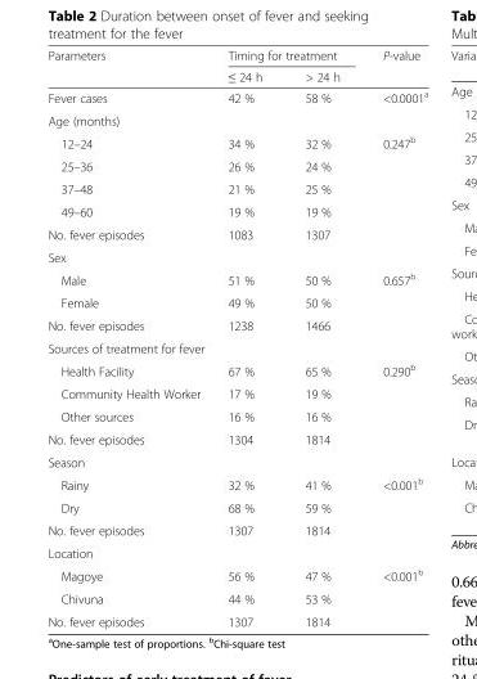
<table><thead><tr><td rowspan="2">Parameters</td><td colspan="2">Timing for treatment</td><td rowspan="2">P-value</td></tr><tr><td>≤ 24 h</td><td>&gt; 24 h</td></tr></thead><tbody><tr><td>Fever cases</td><td>42 %</td><td>58 %</td><td>&lt;0.0001<sup>a</sup></td></tr><tr><td colspan="4">Age (months)</td></tr><tr><td>12–24</td><td>34 %</td><td>32 %</td><td rowspan="5">0.247<sup>b</sup></td></tr><tr><td>25–36</td><td>26 %</td><td>24 %</td></tr><tr><td>37–48</td><td>21 %</td><td>25 %</td></tr><tr><td>49–60</td><td>19 %</td><td>19 %</td></tr><tr><td>No. fever episodes</td><td>1083</td><td>1307</td></tr><tr><td colspan="4">Sex</td></tr><tr><td>Male</td><td>51 %</td><td>50 %</td><td rowspan="3">0.657<sup>b</sup></td></tr><tr><td>Female</td><td>49 %</td><td>50 %</td></tr><tr><td>No. fever episodes</td><td>1238</td><td>1466</td></tr><tr><td colspan="4">Sources of treatment for fever</td></tr><tr><td>Health Facility</td><td>67 %</td><td>65 %</td><td rowspan="4">0.290<sup>b</sup></td></tr><tr><td>Community Health Worker</td><td>17 %</td><td>19 %</td></tr><tr><td>Other sources</td><td>16 %</td><td>16 %</td></tr><tr><td>No. fever episodes</td><td>1304</td><td>1814</td></tr><tr><td colspan="4">Season</td></tr><tr><td>Rainy</td><td>32 %</td><td>41 %</td><td rowspan="3">&lt;0.001<sup>b</sup></td></tr><tr><td>Dry</td><td>68 %</td><td>59 %</td></tr><tr><td>No. fever episodes</td><td>1307</td><td>1814</td></tr><tr><td colspan="4">Location</td></tr><tr><td>Magoye</td><td>56 %</td><td>47 %</td><td rowspan="3">&lt;0.001<sup>b</sup></td></tr><tr><td>Chivuna</td><td>44 %</td><td>53 %</td></tr><tr><td>No. fever episodes</td><td>1307</td><td>1814</td></tr></tbody></table>